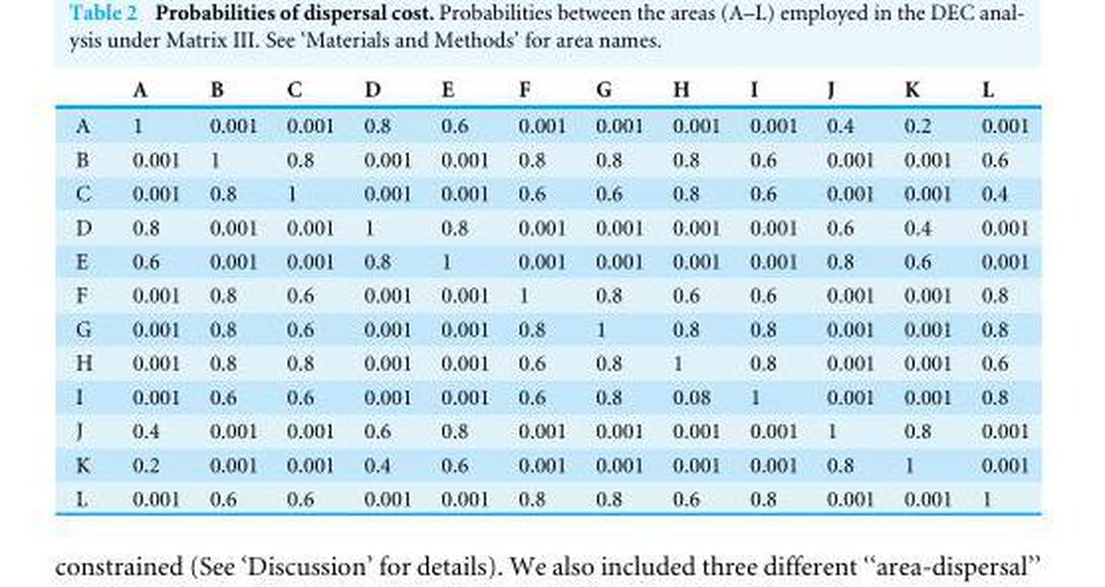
<table><thead><tr><td></td><td>A</td><td>B</td><td>C</td><td>D</td><td>E</td><td>F</td><td>G</td><td>H</td><td>I</td><td>J</td><td>K</td><td>L</td></tr></thead><tbody><tr><td>A</td><td>1</td><td>0.001</td><td>0.001</td><td>0.8</td><td>0.6</td><td>0.001</td><td>0.001</td><td>0.001</td><td>0.001</td><td>0.4</td><td>0.2</td><td>0.001</td></tr><tr><td>B</td><td>0.001</td><td>1</td><td>0.8</td><td>0.001</td><td>0.001</td><td>0.8</td><td>0.8</td><td>0.8</td><td>0.6</td><td>0.001</td><td>0.001</td><td>0.6</td></tr><tr><td>C</td><td>0.001</td><td>0.8</td><td>1</td><td>0.001</td><td>0.001</td><td>0.6</td><td>0.6</td><td>0.8</td><td>0.6</td><td>0.001</td><td>0.001</td><td>0.4</td></tr><tr><td>D</td><td>0.8</td><td>0.001</td><td>0.001</td><td>1</td><td>0.8</td><td>0.001</td><td>0.001</td><td>0.001</td><td>0.001</td><td>0.6</td><td>0.4</td><td>0.001</td></tr><tr><td>E</td><td>0.6</td><td>0.001</td><td>0.001</td><td>0.8</td><td>1</td><td>0.001</td><td>0.001</td><td>0.001</td><td>0.001</td><td>0.8</td><td>0.6</td><td>0.001</td></tr><tr><td>F</td><td>0.001</td><td>0.8</td><td>0.6</td><td>0.001</td><td>0.001</td><td>1</td><td>0.8</td><td>0.6</td><td>0.6</td><td>0.001</td><td>0.001</td><td>0.8</td></tr><tr><td>G</td><td>0.001</td><td>0.8</td><td>0.6</td><td>0.001</td><td>0.001</td><td>0.8</td><td>1</td><td>0.8</td><td>0.8</td><td>0.001</td><td>0.001</td><td>0.8</td></tr><tr><td>H</td><td>0.001</td><td>0.8</td><td>0.8</td><td>0.001</td><td>0.001</td><td>0.6</td><td>0.8</td><td>1</td><td>0.8</td><td>0.001</td><td>0.001</td><td>0.6</td></tr><tr><td>I</td><td>0.001</td><td>0.6</td><td>0.6</td><td>0.001</td><td>0.001</td><td>0.6</td><td>0.8</td><td>0.08</td><td>1</td><td>0.001</td><td>0.001</td><td>0.8</td></tr><tr><td>J</td><td>0.4</td><td>0.001</td><td>0.001</td><td>0.6</td><td>0.8</td><td>0.001</td><td>0.001</td><td>0.001</td><td>0.001</td><td>1</td><td>0.8</td><td>0.001</td></tr><tr><td>K</td><td>0.2</td><td>0.001</td><td>0.001</td><td>0.4</td><td>0.6</td><td>0.001</td><td>0.001</td><td>0.001</td><td>0.001</td><td>0.8</td><td>1</td><td>0.001</td></tr><tr><td>L</td><td>0.001</td><td>0.6</td><td>0.6</td><td>0.001</td><td>0.001</td><td>0.8</td><td>0.8</td><td>0.6</td><td>0.8</td><td>0.001</td><td>0.001</td><td>1</td></tr></tbody></table>